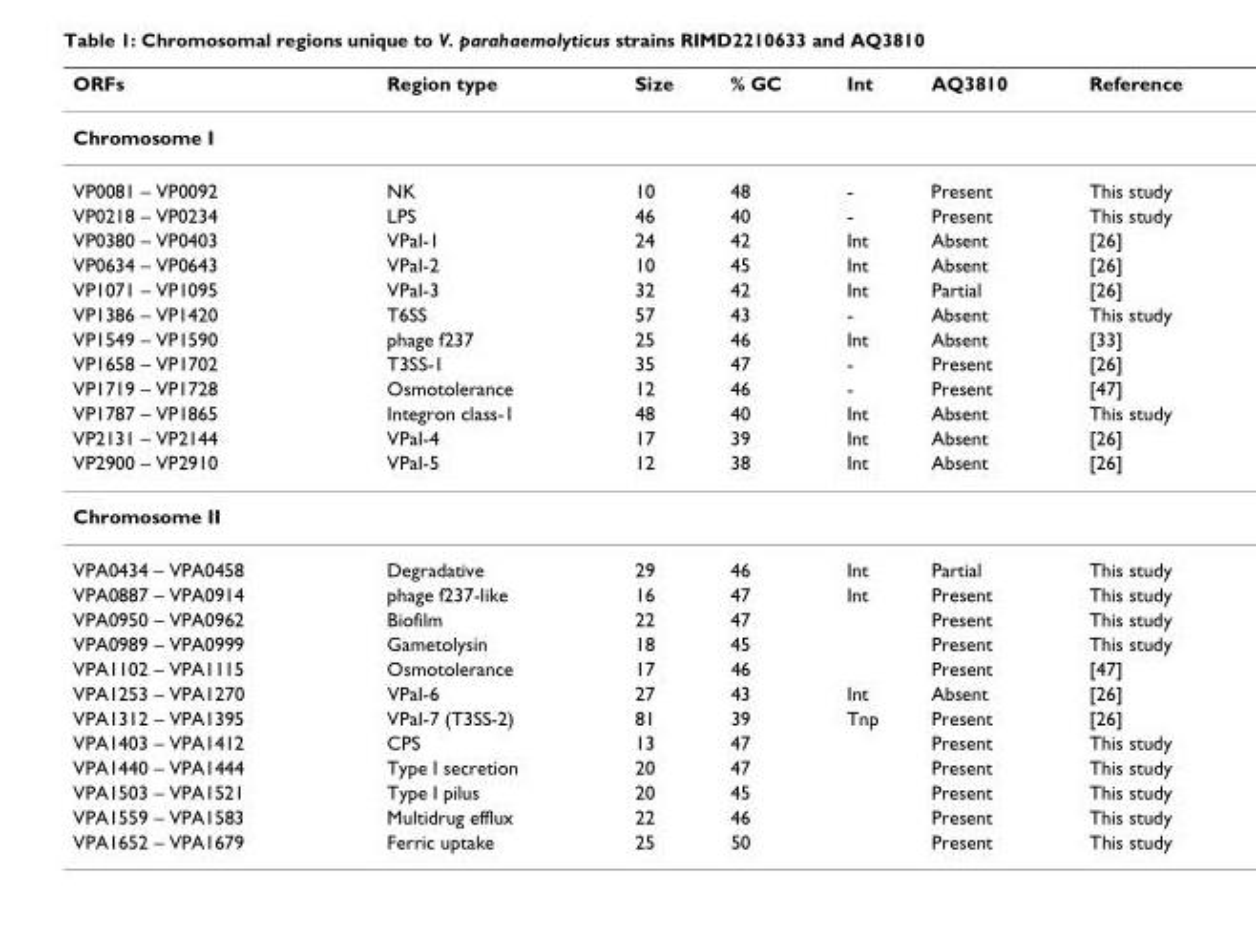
<table><thead><tr><td>ORFs</td><td>Region type</td><td>Size</td><td>% GC</td><td>Int</td><td>AQ3810</td><td>Reference</td></tr></thead><tbody><tr><td colspan="7">Chromosome I</td></tr><tr><td>VP0081 – VP0092</td><td>NK</td><td>10</td><td>48</td><td>-</td><td>Present</td><td>This study</td></tr><tr><td>VP0218 – VP0234</td><td>LPS</td><td>46</td><td>40</td><td>-</td><td>Present</td><td>This study</td></tr><tr><td>VP0380 – VP0403</td><td>VPaI-1</td><td>24</td><td>42</td><td>Int</td><td>Absent</td><td>[26]</td></tr><tr><td>VP0634 – VP0643</td><td>VPaI-2</td><td>10</td><td>45</td><td>Int</td><td>Absent</td><td>[26]</td></tr><tr><td>VP1071 – VP1095</td><td>VPaI-3</td><td>32</td><td>42</td><td>Int</td><td>Partial</td><td>[26]</td></tr><tr><td>VP1386 – VP1420</td><td>T6SS</td><td>57</td><td>43</td><td>-</td><td>Absent</td><td>This study</td></tr><tr><td>VP1549 – VP1590</td><td>phage f237</td><td>25</td><td>46</td><td>Int</td><td>Absent</td><td>[33]</td></tr><tr><td>VP1658 – VP1702</td><td>T3SS-1</td><td>35</td><td>47</td><td>-</td><td>Present</td><td>[26]</td></tr><tr><td>VP1719 – VP1728</td><td>Osmotolerance</td><td>12</td><td>46</td><td>-</td><td>Present</td><td>[47]</td></tr><tr><td>VP1787 – VP1865</td><td>Integron class-1</td><td>48</td><td>40</td><td>Int</td><td>Absent</td><td>This study</td></tr><tr><td>VP2131 – VP2144</td><td>VPaI-4</td><td>17</td><td>39</td><td>Int</td><td>Absent</td><td>[26]</td></tr><tr><td>VP2900 – VP2910</td><td>VPaI-5</td><td>12</td><td>38</td><td>Int</td><td>Absent</td><td>[26]</td></tr><tr><td colspan="7">Chromosome II</td></tr><tr><td>VPA0434 – VPA0458</td><td>Degradative</td><td>29</td><td>46</td><td>Int</td><td>Partial</td><td>This study</td></tr><tr><td>VPA0887 – VPA0914</td><td>phage f237-like</td><td>16</td><td>47</td><td>Int</td><td>Present</td><td>This study</td></tr><tr><td>VPA0950 – VPA0962</td><td>Biofilm</td><td>22</td><td>47</td><td></td><td>Present</td><td>This study</td></tr><tr><td>VPA0989 – VPA0999</td><td>Gametolysin</td><td>18</td><td>45</td><td></td><td>Present</td><td>This study</td></tr><tr><td>VPA1102 – VPA1115</td><td>Osmotolerance</td><td>17</td><td>46</td><td></td><td>Present</td><td>[47]</td></tr><tr><td>VPA1253 – VPA1270</td><td>VPaI-6</td><td>27</td><td>43</td><td>Int</td><td>Absent</td><td>[26]</td></tr><tr><td>VPA1312 – VPA1395</td><td>VPaI-7 (T3SS-2)</td><td>81</td><td>39</td><td>Tnp</td><td>Present</td><td>[26]</td></tr><tr><td>VPA1403 – VPA1412</td><td>CPS</td><td>13</td><td>47</td><td></td><td>Present</td><td>This study</td></tr><tr><td>VPA1440 – VPA1444</td><td>Type I secretion</td><td>20</td><td>47</td><td></td><td>Present</td><td>This study</td></tr><tr><td>VPA1503 – VPA1521</td><td>Type I pilus</td><td>20</td><td>45</td><td></td><td>Present</td><td>This study</td></tr><tr><td>VPA1559 – VPA1583</td><td>Multidrug efflux</td><td>22</td><td>46</td><td></td><td>Present</td><td>This study</td></tr><tr><td>VPA1652 – VPA1679</td><td>Ferric uptake</td><td>25</td><td>50</td><td></td><td>Present</td><td>This study</td></tr></tbody></table>